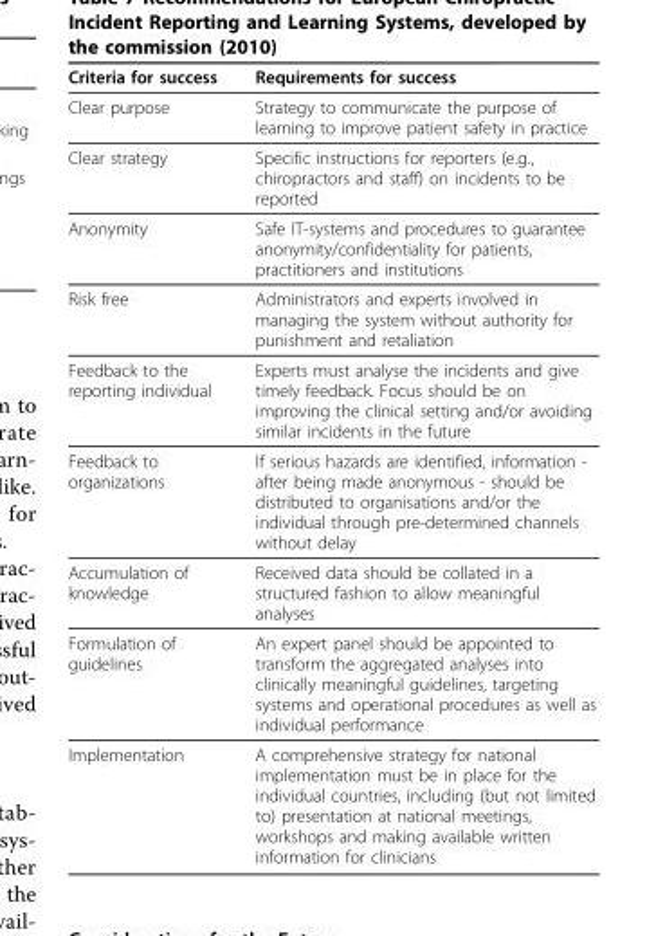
<table><thead><tr><td>Criteria for success</td><td>Requirements for success</td></tr></thead><tbody><tr><td>Clear purpose</td><td>Strategy to communicate the purpose of learning to improve patient safety in practice</td></tr><tr><td>Clear strategy</td><td>Specific instructions for reporters (e.g., chiropractors and staff) on incidents to be reported</td></tr><tr><td>Anonymity</td><td>Safe IT-systems and procedures to guarantee anonymity/confidentiality for patients, practitioners and institutions</td></tr><tr><td>Risk free</td><td>Administrators and experts involved in managing the system without authority for punishment and retaliation</td></tr><tr><td>Feedback to the reporting individual</td><td>Experts must analyse the incidents and give timely feedback. Focus should be on improving the clinical setting and/or avoiding similar incidents in the future</td></tr><tr><td>Feedback to organizations</td><td>If serious hazards are identified, information - after being made anonymous - should be distributed to organisations and/or the individual through pre-determined channels without delay</td></tr><tr><td>Accumulation of knowledge</td><td>Received data should be collated in a structured fashion to allow meaningful analyses</td></tr><tr><td>Formulation of guidelines</td><td>An expert panel should be appointed to transform the aggregated analyses into clinically meaningful guidelines, targeting systems and operational procedures as well as individual performance</td></tr><tr><td>Implementation</td><td>A comprehensive strategy for national implementation must be in place for the individual countries, including (but not limited to) presentation at national meetings, workshops and making available written information for clinicians</td></tr></tbody></table>